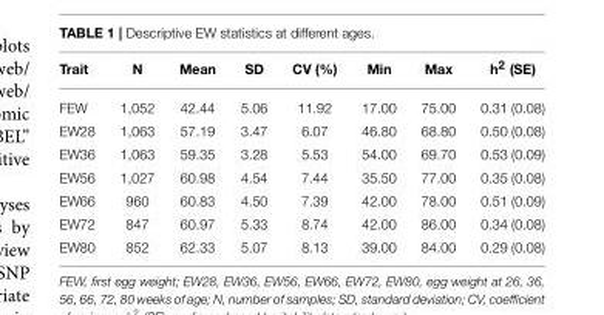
<table><thead><tr><td>Trait</td><td>N</td><td>Mean</td><td>SD</td><td>CV (%)</td><td>Min</td><td>Max</td><td>h<sup>2</sup> (SE)</td></tr></thead><tbody><tr><td>FEW</td><td>1,052</td><td>42.44</td><td>5.06</td><td>11.92</td><td>17.00</td><td>75.00</td><td>0.31 (0.08)</td></tr><tr><td>EW28</td><td>1,063</td><td>57.19</td><td>3.47</td><td>6.07</td><td>46.80</td><td>68.80</td><td>0.50 (0.08)</td></tr><tr><td>EW36</td><td>1,063</td><td>59.35</td><td>3.28</td><td>5.53</td><td>54.00</td><td>69.70</td><td>0.53 (0.09)</td></tr><tr><td>EW56</td><td>1,027</td><td>60.98</td><td>4.54</td><td>7.44</td><td>35.50</td><td>77.00</td><td>0.35 (0.08)</td></tr><tr><td>EW66</td><td>960</td><td>60.83</td><td>4.50</td><td>7.39</td><td>42.00</td><td>78.00</td><td>0.51 (0.09)</td></tr><tr><td>EW72</td><td>847</td><td>60.97</td><td>5.33</td><td>8.74</td><td>42.00</td><td>86.00</td><td>0.34 (0.08)</td></tr><tr><td>EW80</td><td>852</td><td>62.33</td><td>5.07</td><td>8.13</td><td>39.00</td><td>84.00</td><td>0.29 (0.08)</td></tr></tbody></table>